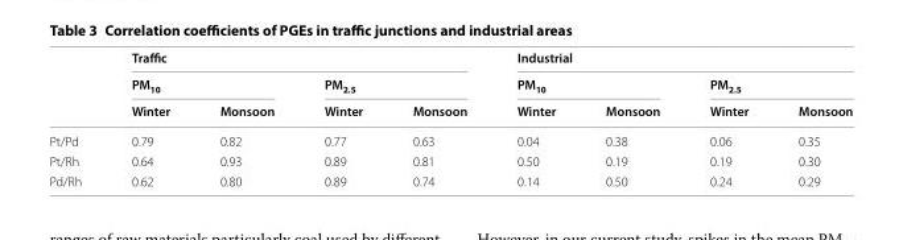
<table><thead><tr><td rowspan="3"></td><td colspan="4">Traffic</td><td colspan="4">Industrial</td></tr><tr><td colspan="2">PM<sub>10</sub></td><td colspan="2">PM<sub>2.5</sub></td><td colspan="2">PM<sub>10</sub></td><td colspan="2">PM<sub>2.5</sub></td></tr><tr><td>Winter</td><td>Monsoon</td><td>Winter</td><td>Monsoon</td><td>Winter</td><td>Monsoon</td><td>Winter</td><td>Monsoon</td></tr></thead><tbody><tr><td>Pt/Pd</td><td>0.79</td><td>0.82</td><td>0.77</td><td>0.63</td><td>0.04</td><td>0.38</td><td>0.06</td><td>0.35</td></tr><tr><td>Pt/Rh</td><td>0.64</td><td>0.93</td><td>0.89</td><td>0.81</td><td>0.50</td><td>0.19</td><td>0.19</td><td>0.30</td></tr><tr><td>Pd/Rh</td><td>0.62</td><td>0.80</td><td>0.89</td><td>0.74</td><td>0.14</td><td>0.50</td><td>0.24</td><td>0.29</td></tr></tbody></table>